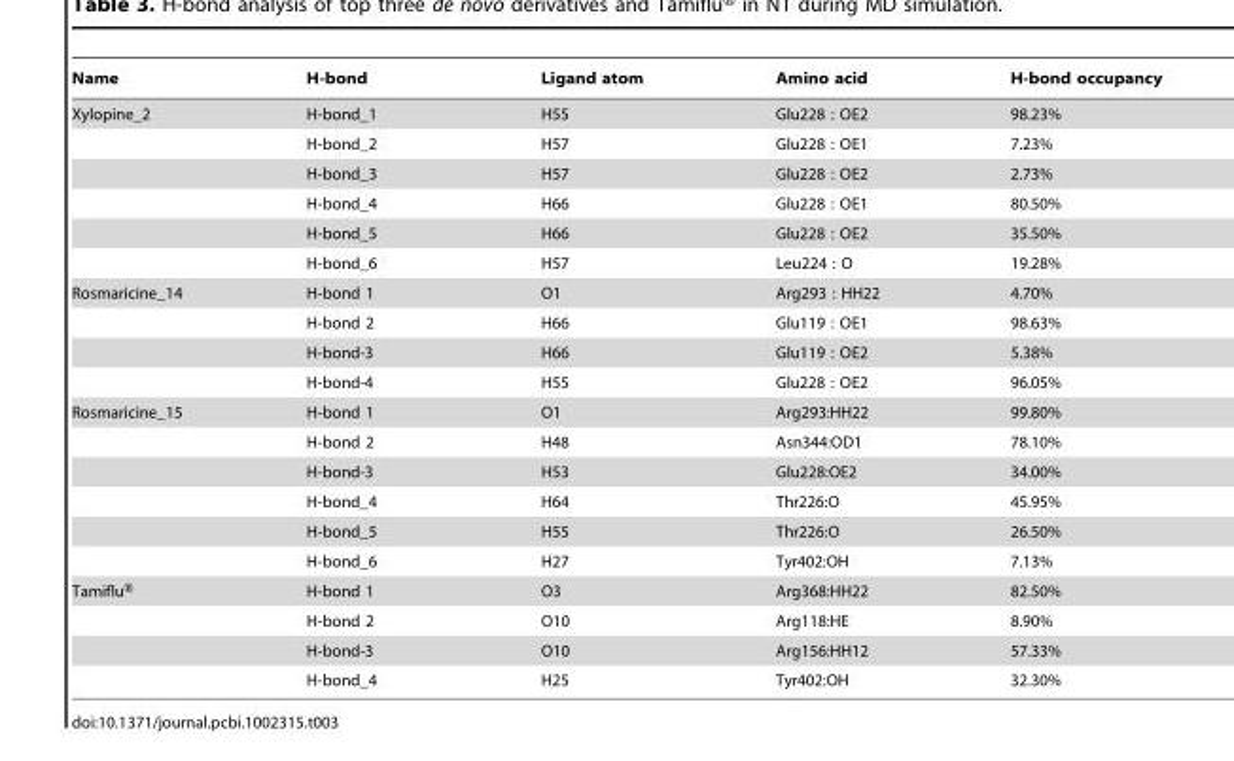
<table><thead><tr><td>Name</td><td>H-bond</td><td>Ligand atom</td><td>Amino acid</td><td>H-bond occupancy</td></tr></thead><tbody><tr><td rowspan="6">Xylopine_2</td><td>H-bond_1</td><td>H55</td><td>Glu228 : OE2</td><td>98.23%</td></tr><tr><td>H-bond_2</td><td>H57</td><td>Glu228 : OE1</td><td>7.23%</td></tr><tr><td>H-bond_3</td><td>H57</td><td>Glu228 : OE2</td><td>2.73%</td></tr><tr><td>H-bond_4</td><td>H66</td><td>Glu228 : OE1</td><td>80.50%</td></tr><tr><td>H-bond_5</td><td>H66</td><td>Glu228 : OE2</td><td>35.50%</td></tr><tr><td>H-bond_6</td><td>H57</td><td>Leu224 : O</td><td>19.28%</td></tr><tr><td rowspan="4">Rosmaricine_14</td><td>H-bond 1</td><td>O1</td><td>Arg293 : HH22</td><td>4.70%</td></tr><tr><td>H-bond 2</td><td>H66</td><td>Glu119 : OE1</td><td>98.63%</td></tr><tr><td>H-bond-3</td><td>H66</td><td>Glu119 : OE2</td><td>5.38%</td></tr><tr><td>H-bond-4</td><td>H55</td><td>Glu228 : OE2</td><td>96.05%</td></tr><tr><td rowspan="6">Rosmaricine_15</td><td>H-bond 1</td><td>O1</td><td>Arg293:HH22</td><td>99.80%</td></tr><tr><td>H-bond 2</td><td>H48</td><td>Asn344:OD1</td><td>78.10%</td></tr><tr><td>H-bond-3</td><td>H53</td><td>Glu228:OE2</td><td>34.00%</td></tr><tr><td>H-bond_4</td><td>H64</td><td>Thr226:O</td><td>45.95%</td></tr><tr><td>H-bond_5</td><td>H55</td><td>Thr226:O</td><td>26.50%</td></tr><tr><td>H-bond_6</td><td>H27</td><td>Tyr402:OH</td><td>7.13%</td></tr><tr><td rowspan="4">Tamiflu®</td><td>H-bond 1</td><td>O3</td><td>Arg368:HH22</td><td>82.50%</td></tr><tr><td>H-bond 2</td><td>O10</td><td>Arg118:HE</td><td>8.90%</td></tr><tr><td>H-bond-3</td><td>O10</td><td>Arg156:HH12</td><td>57.33%</td></tr><tr><td>H-bond_4</td><td>H25</td><td>Tyr402:OH</td><td>32.30%</td></tr></tbody></table>